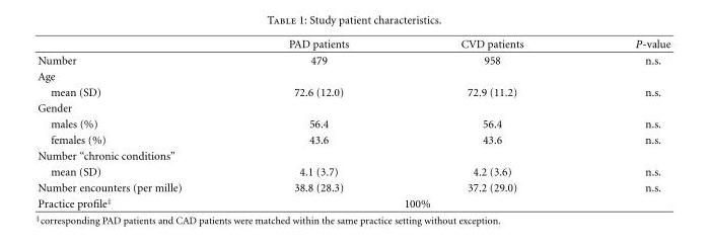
<table><thead><tr><td></td><td>PAD patients</td><td>CVD patients</td><td>P-value</td></tr></thead><tbody><tr><td>Number</td><td>479</td><td>958</td><td>n.s.</td></tr><tr><td colspan="4">Age</td></tr><tr><td>mean (SD)</td><td>72.6 (12.0)</td><td>72.9 (11.2)</td><td>n.s.</td></tr><tr><td colspan="4">Gender</td></tr><tr><td>males (%)</td><td>56.4</td><td>56.4</td><td>n.s.</td></tr><tr><td>females (%)</td><td>43.6</td><td>43.6</td><td>n.s.</td></tr><tr><td colspan="4">Number “chronic conditions”</td></tr><tr><td>mean (SD)</td><td>4.1 (3.7)</td><td>4.2 (3.6)</td><td>n.s.</td></tr><tr><td>Number encounters (per mille)</td><td>38.8 (28.3)</td><td>37.2 (29.0)</td><td>n.s.</td></tr><tr><td>Practice profile<sup>‡</sup></td><td colspan="3">100%</td></tr></tbody></table>